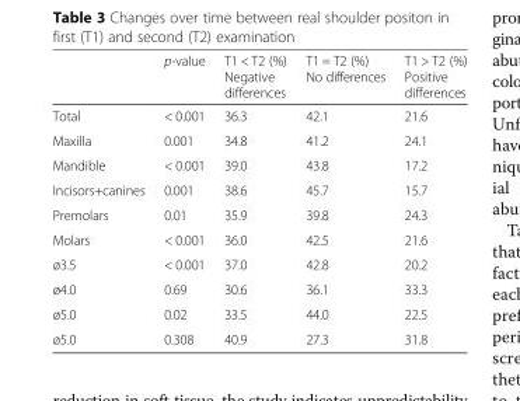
<table><thead><tr><td></td><td>p-value</td><td>T1 &lt; T2 (%) Negative differences</td><td>T1 = T2 (%) No differences</td><td>T1 &gt; T2 (%) Positive differences</td></tr></thead><tbody><tr><td>Total</td><td>&lt; 0.001</td><td>36.3</td><td>42.1</td><td>21.6</td></tr><tr><td>Maxilla</td><td>0.001</td><td>34.8</td><td>41.2</td><td>24.1</td></tr><tr><td>Mandible</td><td>&lt; 0.001</td><td>39.0</td><td>43.8</td><td>17.2</td></tr><tr><td>Incisors+canines</td><td>0.001</td><td>38.6</td><td>45.7</td><td>15.7</td></tr><tr><td>Premolars</td><td>0.01</td><td>35.9</td><td>39.8</td><td>24.3</td></tr><tr><td>Molars</td><td>&lt; 0.001</td><td>36.0</td><td>42.5</td><td>21.6</td></tr><tr><td>ø3.5</td><td>&lt; 0.001</td><td>37.0</td><td>42.8</td><td>20.2</td></tr><tr><td>ø4.0</td><td>0.69</td><td>30.6</td><td>36.1</td><td>33.3</td></tr><tr><td>ø5.0</td><td>0.02</td><td>33.5</td><td>44.0</td><td>22.5</td></tr><tr><td>ø5.0</td><td>0.308</td><td>40.9</td><td>27.3</td><td>31.8</td></tr></tbody></table>